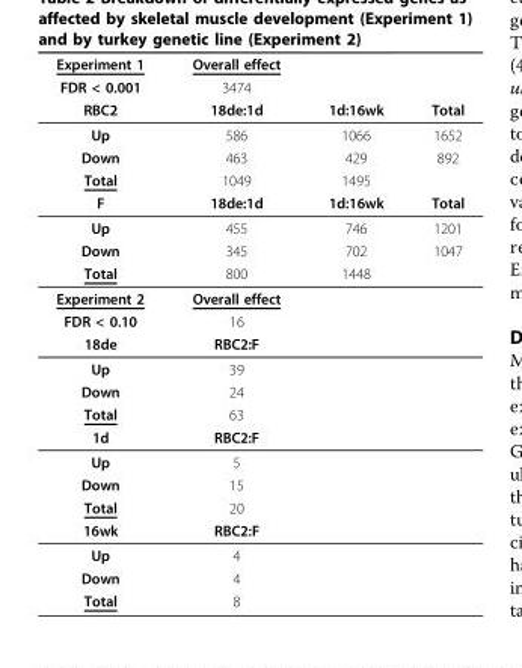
<table><thead><tr><td rowspan="3">Experiment 1 FDR &lt; 0.001 RBC2</td><td rowspan="3">Overall effect 3474 18de:1d</td><td rowspan="3">1d:16wk</td><td rowspan="3">Total</td></tr><tr></tr><tr></tr></thead><tbody><tr><td>Up</td><td>586</td><td>1066</td><td>1652</td></tr><tr><td>Down</td><td>463</td><td>429</td><td>892</td></tr><tr><td>Total</td><td>1049</td><td>1495</td><td></td></tr><tr><td>F</td><td>18de:1d</td><td>1d:16wk</td><td>Total</td></tr><tr><td>Up</td><td>455</td><td>746</td><td>1201</td></tr><tr><td>Down</td><td>345</td><td>702</td><td>1047</td></tr><tr><td>Total</td><td>800</td><td>1448</td><td></td></tr><tr><td>Experiment 2</td><td>Overall effect</td><td></td><td></td></tr><tr><td>FDR &lt; 0.10</td><td>16</td><td></td><td></td></tr><tr><td>18de</td><td>RBC2:F</td><td></td><td></td></tr><tr><td>Up</td><td>39</td><td></td><td></td></tr><tr><td>Down</td><td>24</td><td></td><td></td></tr><tr><td>Total</td><td>63</td><td></td><td></td></tr><tr><td>1d</td><td>RBC2:F</td><td></td><td></td></tr><tr><td>Up</td><td>5</td><td></td><td></td></tr><tr><td>Down</td><td>15</td><td></td><td></td></tr><tr><td>Total</td><td>20</td><td></td><td></td></tr><tr><td>16wk</td><td>RBC2:F</td><td></td><td></td></tr><tr><td>Up</td><td>4</td><td></td><td></td></tr><tr><td>Down</td><td>4</td><td></td><td></td></tr><tr><td>Total</td><td>8</td><td></td><td></td></tr></tbody></table>